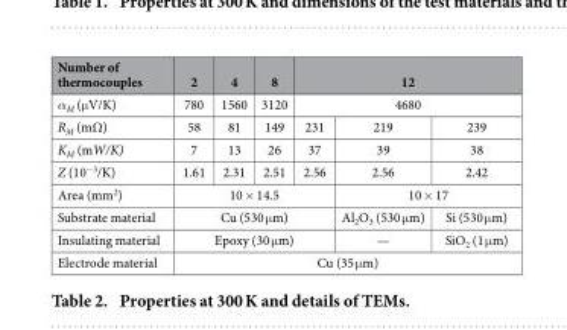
<table><thead><tr><td rowspan="3">Number of thermocouples α<sub>M</sub> (μ V/K) R<sub>M</sub> (mΩ)</td><td rowspan="3">2 780 58</td><td rowspan="3">4 1560 81</td><td rowspan="3">8 3120 149</td><td rowspan="2" colspan="3">12 4680</td></tr><tr></tr><tr><td>231</td><td>219</td><td>239</td></tr></thead><tbody><tr><td>K<sub>M</sub> (mW/K)</td><td>7</td><td>13</td><td>26</td><td>37</td><td>39</td><td>38</td></tr><tr><td>Z (10<sup>−3</sup>/K)</td><td>1.61</td><td>2.31</td><td>2.51</td><td>2.56</td><td>2.56</td><td>2.42</td></tr><tr><td>Area (mm<sup>2</sup>)</td><td colspan="4">10 × 14.5</td><td colspan="2">10 × 17</td></tr><tr><td>Substrate material</td><td colspan="4">Cu (530 μ m)</td><td>Al<sub>2</sub>O<sub>3</sub> (530 μ m)</td><td>Si (530 μ m)</td></tr><tr><td>Insulating material</td><td colspan="4">Epoxy (30 μ m)</td><td>—</td><td>SiO<sub>2</sub> (1 μ m)</td></tr><tr><td>Electrode material</td><td colspan="6">Cu (35 μ m)</td></tr></tbody></table>